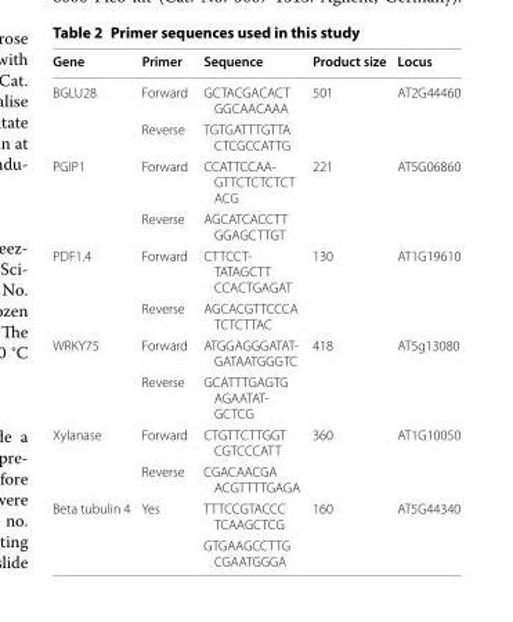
<table><thead><tr><td>Gene</td><td>Primer</td><td>Sequence</td><td>Product size</td><td>Locus</td></tr></thead><tbody><tr><td rowspan="2">BGLU28</td><td>Forward</td><td>GCTACGACACT GGCAACAAA</td><td rowspan="2">501</td><td rowspan="2">AT2G44460</td></tr><tr><td>Reverse</td><td>TGTGATTTGTTA CTCGCCATTG</td></tr><tr><td rowspan="2">PGIP1</td><td>Forward</td><td>CCATTCCAA- GTTCTCTCTCT ACG</td><td rowspan="2">221</td><td rowspan="2">AT5G06860</td></tr><tr><td>Reverse</td><td>AGCATCACCTT GGAGCTTGT</td></tr><tr><td rowspan="2">PDF1.4</td><td>Forward</td><td>CTTCCT- TATAGCTT CCACTGAGAT</td><td rowspan="2">130</td><td rowspan="2">AT1G19610</td></tr><tr><td>Reverse</td><td>AGCACGTTCCCA TCTCTTAC</td></tr><tr><td rowspan="2">WRKY75</td><td>Forward</td><td>ATGGAGGGATAT- GATAATGGGTC</td><td rowspan="2">418</td><td rowspan="2">AT5g13080</td></tr><tr><td>Reverse</td><td>GCATTTGAGTG AGAATAT- GCTCG</td></tr><tr><td rowspan="2">Xylanase</td><td>Forward</td><td>CTGTTCTTGGT CGTCCCATT</td><td rowspan="2">360</td><td rowspan="2">AT1G10050</td></tr><tr><td>Reverse</td><td>CGACAACGA ACGTTTTGAGA</td></tr><tr><td rowspan="2">Beta tubulin 4</td><td>Yes</td><td>TTTCCGTACCC TCAAGCTCG</td><td rowspan="2">160</td><td rowspan="2">AT5G44340</td></tr><tr><td></td><td>GTGAAGCCTTG CGAATGGGA</td></tr></tbody></table>